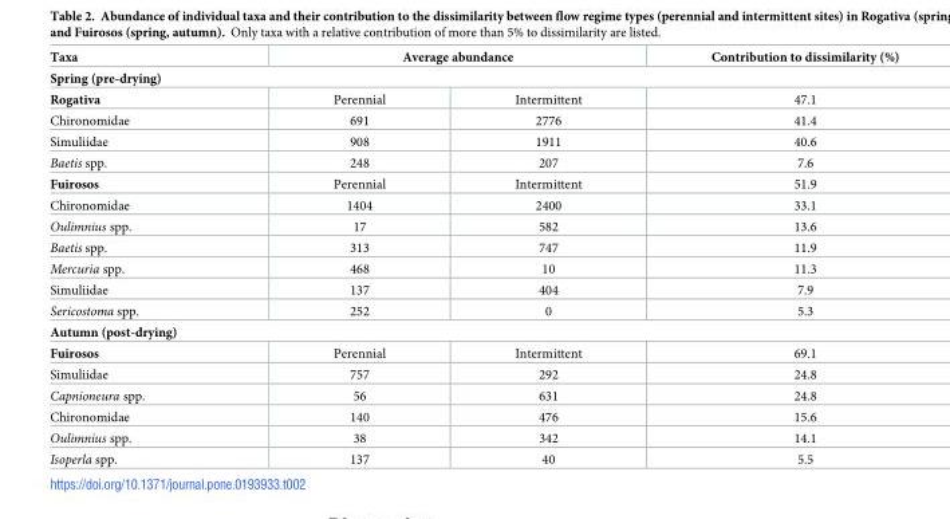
<table><thead><tr><td>Taxa</td><td colspan="2">Average abundance</td><td>Contribution to dissimilarity (%)</td></tr><tr><td colspan="4">Spring (pre-drying)</td></tr><tr><td>Rogativa</td><td>Perennial</td><td>Intermittent</td><td>47.1</td></tr></thead><tbody><tr><td>Chironomidae</td><td>691</td><td>2776</td><td>41.4</td></tr><tr><td>Simuliidae</td><td>908</td><td>1911</td><td>40.6</td></tr><tr><td>Baetis spp.</td><td>248</td><td>207</td><td>7.6</td></tr><tr><td>Fuirosos</td><td>Perennial</td><td>Intermittent</td><td>51.9</td></tr><tr><td>Chironomidae</td><td>1404</td><td>2400</td><td>33.1</td></tr><tr><td>Oulimnius spp.</td><td>17</td><td>582</td><td>13.6</td></tr><tr><td>Baetis spp.</td><td>313</td><td>747</td><td>11.9</td></tr><tr><td>Mercuria spp.</td><td>468</td><td>10</td><td>11.3</td></tr><tr><td>Simuliidae</td><td>137</td><td>404</td><td>7.9</td></tr><tr><td>Sericostoma spp.</td><td>252</td><td>0</td><td>5.3</td></tr><tr><td colspan="4">Autumn (post-drying)</td></tr><tr><td>Fuirosos</td><td>Perennial</td><td>Intermittent</td><td>69.1</td></tr><tr><td>Simuliidae</td><td>757</td><td>292</td><td>24.8</td></tr><tr><td>Capnioneura spp.</td><td>56</td><td>631</td><td>24.8</td></tr><tr><td>Chironomidae</td><td>140</td><td>476</td><td>15.6</td></tr><tr><td>Oulimnius spp.</td><td>38</td><td>342</td><td>14.1</td></tr><tr><td>Isoperla spp.</td><td>137</td><td>40</td><td>5.5</td></tr></tbody></table>